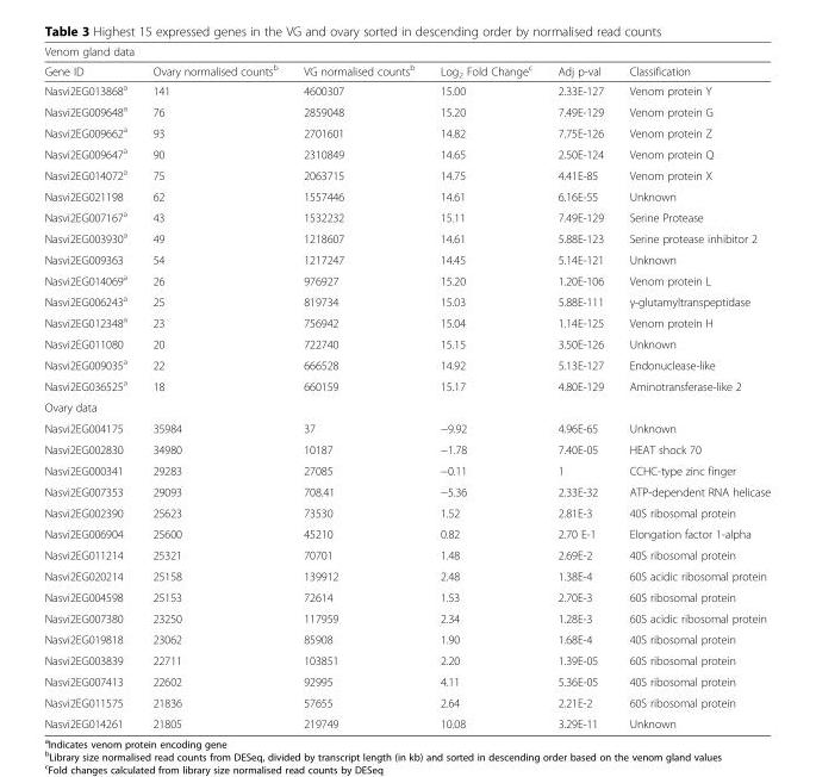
<table><thead><tr><td colspan="6">Venom gland data</td></tr><tr><td>Gene ID</td><td>Ovary normalised counts<sup>b</sup></td><td>VG normalised counts<sup>b</sup></td><td>Log<sub>2</sub> Fold Change<sup>c</sup></td><td>Adj p-val</td><td>Classification</td></tr></thead><tbody><tr><td>Nasvi2EG013868<sup>a</sup></td><td>141</td><td>4600307</td><td>15.00</td><td>2.33E-127</td><td>Venom protein Y</td></tr><tr><td>Nasvi2EG009648<sup>a</sup></td><td>76</td><td>2859048</td><td>15.20</td><td>7.49E-129</td><td>Venom protein G</td></tr><tr><td>Nasvi2EG009662<sup>a</sup></td><td>93</td><td>2701601</td><td>14.82</td><td>7.75E-126</td><td>Venom protein Z</td></tr><tr><td>Nasvi2EG009647<sup>a</sup></td><td>90</td><td>2310849</td><td>14.65</td><td>2.50E-124</td><td>Venom protein Q</td></tr><tr><td>Nasvi2EG014072<sup>a</sup></td><td>75</td><td>2063715</td><td>14.75</td><td>4.41E-85</td><td>Venom protein X</td></tr><tr><td>Nasvi2EG021198</td><td>62</td><td>1557446</td><td>14.61</td><td>6.16E-55</td><td>Unknown</td></tr><tr><td>Nasvi2EG007167<sup>a</sup></td><td>43</td><td>1532232</td><td>15.11</td><td>7.49E-129</td><td>Serine Protease</td></tr><tr><td>Nasvi2EG003930<sup>a</sup></td><td>49</td><td>1218607</td><td>14.61</td><td>5.88E-123</td><td>Serine protease inhibitor 2</td></tr><tr><td>Nasvi2EG009363</td><td>54</td><td>1217247</td><td>14.45</td><td>5.14E-121</td><td>Unknown</td></tr><tr><td>Nasvi2EG014069<sup>a</sup></td><td>26</td><td>976927</td><td>15.20</td><td>1.20E-106</td><td>Venom protein L</td></tr><tr><td>Nasvi2EG006243<sup>a</sup></td><td>25</td><td>819734</td><td>15.03</td><td>5.88E-111</td><td>γ-glutamyltranspeptidase</td></tr><tr><td>Nasvi2EG012348<sup>a</sup></td><td>23</td><td>756942</td><td>15.04</td><td>1.14E-125</td><td>Venom protein H</td></tr><tr><td>Nasvi2EG011080</td><td>20</td><td>722740</td><td>15.15</td><td>3.50E-126</td><td>Unknown</td></tr><tr><td>Nasvi2EG009035<sup>a</sup></td><td>22</td><td>666528</td><td>14.92</td><td>5.13E-127</td><td>Endonuclease-like</td></tr><tr><td>Nasvi2EG036525<sup>a</sup></td><td>18</td><td>660159</td><td>15.17</td><td>4.80E-129</td><td>Aminotransferase-like 2</td></tr><tr><td colspan="6">Ovary data</td></tr><tr><td>Nasvi2EG004175</td><td>35984</td><td>37</td><td>−9.92</td><td>4.96E-65</td><td>Unknown</td></tr><tr><td>Nasvi2EG002830</td><td>34980</td><td>10187</td><td>−1.78</td><td>7.40E-05</td><td>HEAT shock 70</td></tr><tr><td>Nasvi2EG000341</td><td>29283</td><td>27085</td><td>−0.11</td><td>1</td><td>CCHC-type zinc finger</td></tr><tr><td>Nasvi2EG007353</td><td>29093</td><td>708.41</td><td>−5.36</td><td>2.33E-32</td><td>ATP-dependent RNA helicase</td></tr><tr><td>Nasvi2EG002390</td><td>25623</td><td>73530</td><td>1.52</td><td>2.81E-3</td><td>40S ribosomal protein</td></tr><tr><td>Nasvi2EG006904</td><td>25600</td><td>45210</td><td>0.82</td><td>2.70 E-1</td><td>Elongation factor 1-alpha</td></tr><tr><td>Nasvi2EG011214</td><td>25321</td><td>70701</td><td>1.48</td><td>2.69E-2</td><td>40S ribosomal protein</td></tr><tr><td>Nasvi2EG020214</td><td>25158</td><td>139912</td><td>2.48</td><td>1.38E-4</td><td>60S acidic ribosomal protein</td></tr><tr><td>Nasvi2EG004598</td><td>25153</td><td>72614</td><td>1.53</td><td>2.70E-3</td><td>60S ribosomal protein</td></tr><tr><td>Nasvi2EG007380</td><td>23250</td><td>117959</td><td>2.34</td><td>1.28E-3</td><td>60S acidic ribosomal protein</td></tr><tr><td>Nasvi2EG019818</td><td>23062</td><td>85908</td><td>1.90</td><td>1.68E-4</td><td>40S ribosomal protein</td></tr><tr><td>Nasvi2EG003839</td><td>22711</td><td>103851</td><td>2.20</td><td>1.39E-05</td><td>60S ribosomal protein</td></tr><tr><td>Nasvi2EG007413</td><td>22602</td><td>92995</td><td>4.11</td><td>5.36E-05</td><td>40S ribosomal protein</td></tr><tr><td>Nasvi2EG011575</td><td>21836</td><td>57655</td><td>2.64</td><td>2.21E-2</td><td>60S ribosomal protein</td></tr><tr><td>Nasvi2EG014261</td><td>21805</td><td>219749</td><td>10.08</td><td>3.29E-11</td><td>Unknown</td></tr></tbody></table>